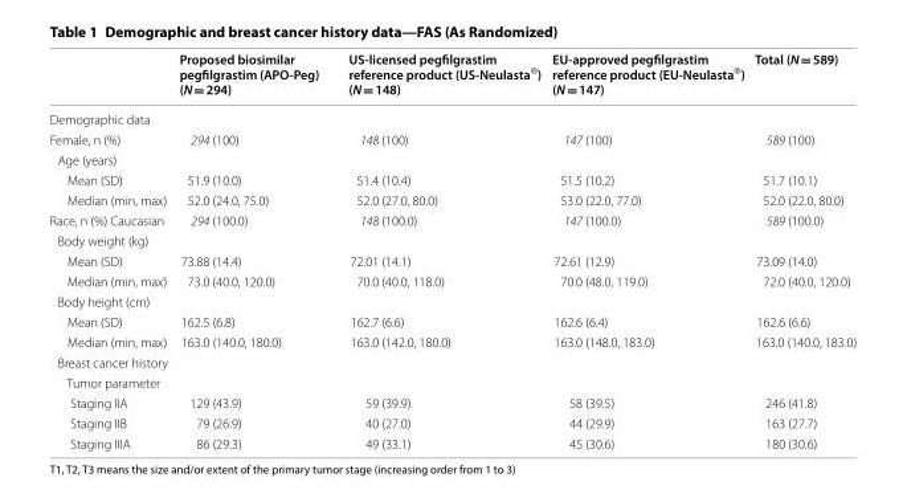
<table><thead><tr><td></td><td>Proposed biosimilar pegfilgrastim (APO-Peg) (N = 294)</td><td>US-licensed pegfilgrastim reference product (US-Neulasta<sup>®</sup>) (N = 148)</td><td>EU-approved pegfilgrastim reference product (EU-Neulasta<sup>®</sup>) (N = 147)</td><td>Total (N = 589)</td></tr></thead><tbody><tr><td colspan="5">Demographic data</td></tr><tr><td>Female, n (%)</td><td>294 (100)</td><td>148 (100)</td><td>147 (100)</td><td>589 (100)</td></tr><tr><td colspan="5">Age (years)</td></tr><tr><td>Mean (SD)</td><td>51.9 (10.0)</td><td>51.4 (10.4)</td><td>51.5 (10.2)</td><td>51.7 (10.1)</td></tr><tr><td>Median (min, max)</td><td>52.0 (24.0, 75.0)</td><td>52.0 (27.0, 80.0)</td><td>53.0 (22.0, 77.0)</td><td>52.0 (22.0, 80.0)</td></tr><tr><td>Race, n (%) Caucasian</td><td>294 (100.0)</td><td>148 (100.0)</td><td>147 (100.0)</td><td>589 (100.0)</td></tr><tr><td colspan="5">Body weight (kg)</td></tr><tr><td>Mean (SD)</td><td>73.88 (14.4)</td><td>72.01 (14.1)</td><td>72.61 (12.9)</td><td>73.09 (14.0)</td></tr><tr><td>Median (min, max)</td><td>73.0 (40.0, 120.0)</td><td>70.0 (40.0, 118.0)</td><td>70.0 (48.0, 119.0)</td><td>72.0 (40.0, 120.0)</td></tr><tr><td colspan="5">Body height (cm)</td></tr><tr><td>Mean (SD)</td><td>162.5 (6.8)</td><td>162.7 (6.6)</td><td>162.6 (6.4)</td><td>162.6 (6.6)</td></tr><tr><td>Median (min, max)</td><td>163.0 (140.0, 180.0)</td><td>163.0 (142.0, 180.0)</td><td>163.0 (148.0, 183.0)</td><td>163.0 (140.0, 183.0)</td></tr><tr><td colspan="5">Breast cancer history</td></tr><tr><td colspan="5">Tumor parameter</td></tr><tr><td>Staging IIA</td><td>129 (43.9)</td><td>59 (39.9)</td><td>58 (39.5)</td><td>246 (41.8)</td></tr><tr><td>Staging IIB</td><td>79 (26.9)</td><td>40 (27.0)</td><td>44 (29.9)</td><td>163 (27.7)</td></tr><tr><td>Staging IIIA</td><td>86 (29.3)</td><td>49 (33.1)</td><td>45 (30.6)</td><td>180 (30.6)</td></tr></tbody></table>